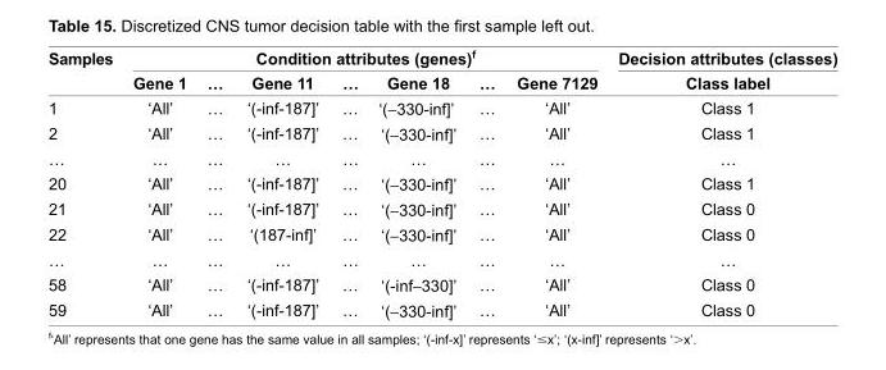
<table><thead><tr><td rowspan="2">Samples</td><td colspan="7">Condition attributes (genes)<sup>f</sup></td><td rowspan="2">Decision attributes (classes) Class label</td></tr><tr><td>Gene 1</td><td>…</td><td>Gene 11</td><td>…</td><td>Gene 18</td><td>…</td><td>Gene 7129</td></tr></thead><tbody><tr><td>1</td><td>‘All’</td><td>…</td><td>‘(-inf-187]’</td><td>…</td><td>‘(−330-inf]’</td><td>…</td><td>‘All’</td><td>Class 1</td></tr><tr><td>2</td><td>‘All’</td><td>…</td><td>‘(-inf-187]’</td><td>…</td><td>‘(−330-inf]’</td><td>…</td><td>‘All’</td><td>Class 1</td></tr><tr><td>…</td><td>…</td><td>…</td><td>…</td><td>…</td><td>…</td><td>…</td><td>…</td><td>…</td></tr><tr><td>20</td><td>‘All’</td><td>…</td><td>‘(-inf-187]’</td><td>…</td><td>‘(−330-inf]’</td><td>…</td><td>‘All’</td><td>Class 1</td></tr><tr><td>21</td><td>‘All’</td><td>…</td><td>‘(-inf-187]’</td><td>…</td><td>‘(−330-inf]’</td><td>…</td><td>‘All’</td><td>Class 0</td></tr><tr><td>22</td><td>‘All’</td><td>…</td><td>‘(187-inf]’</td><td>…</td><td>‘(−330-inf]’</td><td>…</td><td>‘All’</td><td>Class 0</td></tr><tr><td>…</td><td>…</td><td>…</td><td>…</td><td>…</td><td>…</td><td>…</td><td>…</td><td>…</td></tr><tr><td>58</td><td>‘All’</td><td>…</td><td>‘(-inf-187]’</td><td>…</td><td>‘(-inf−330]’</td><td>…</td><td>‘All’</td><td>Class 0</td></tr><tr><td>59</td><td>‘All’</td><td>…</td><td>‘(-inf-187]’</td><td>…</td><td>‘(−330-inf]’</td><td>…</td><td>‘All’</td><td>Class 0</td></tr></tbody></table>